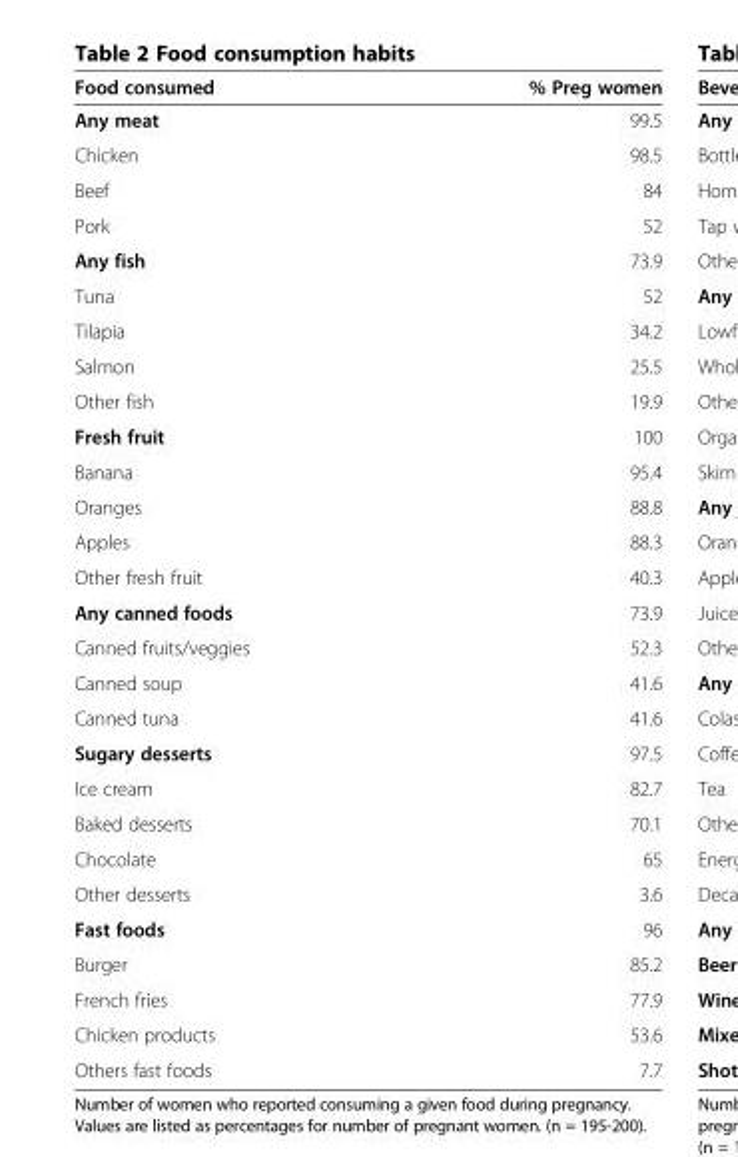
<table><thead><tr><td>Food consumed</td><td>% Preg women</td></tr></thead><tbody><tr><td>Any meat</td><td>99.5</td></tr><tr><td>Chicken</td><td>98.5</td></tr><tr><td>Beef</td><td>84</td></tr><tr><td>Pork</td><td>52</td></tr><tr><td>Any fish</td><td>73.9</td></tr><tr><td>Tuna</td><td>52</td></tr><tr><td>Tilapia</td><td>34.2</td></tr><tr><td>Salmon</td><td>25.5</td></tr><tr><td>Other fish</td><td>19.9</td></tr><tr><td>Fresh fruit</td><td>100</td></tr><tr><td>Banana</td><td>95.4</td></tr><tr><td>Oranges</td><td>88.8</td></tr><tr><td>Apples</td><td>88.3</td></tr><tr><td>Other fresh fruit</td><td>40.3</td></tr><tr><td>Any canned foods</td><td>73.9</td></tr><tr><td>Canned fruits/veggies</td><td>52.3</td></tr><tr><td>Canned soup</td><td>41.6</td></tr><tr><td>Canned tuna</td><td>41.6</td></tr><tr><td>Sugary desserts</td><td>97.5</td></tr><tr><td>Ice cream</td><td>82.7</td></tr><tr><td>Baked desserts</td><td>70.1</td></tr><tr><td>Chocolate</td><td>65</td></tr><tr><td>Other desserts</td><td>3.6</td></tr><tr><td>Fast foods</td><td>96</td></tr><tr><td>Burger</td><td>85.2</td></tr><tr><td>French fries</td><td>77.9</td></tr><tr><td>Chicken products</td><td>53.6</td></tr><tr><td>Others fast foods</td><td>7.7</td></tr></tbody></table>